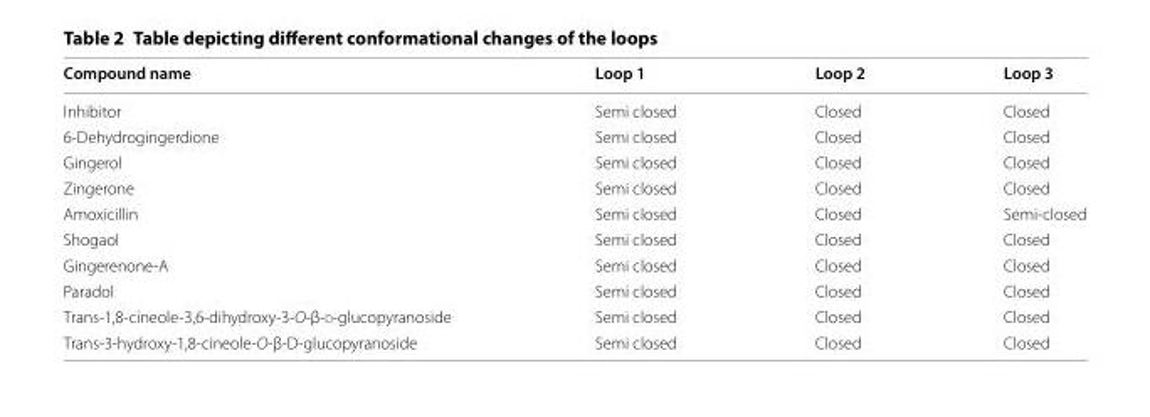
<table><thead><tr><td>Compound name</td><td>Loop 1</td><td>Loop 2</td><td>Loop 3</td></tr></thead><tbody><tr><td>Inhibitor</td><td>Semi closed</td><td>Closed</td><td>Closed</td></tr><tr><td>6-Dehydrogingerdione</td><td>Semi closed</td><td>Closed</td><td>Closed</td></tr><tr><td>Gingerol</td><td>Semi closed</td><td>Closed</td><td>Closed</td></tr><tr><td>Zingerone</td><td>Semi closed</td><td>Closed</td><td>Closed</td></tr><tr><td>Amoxicillin</td><td>Semi closed</td><td>Closed</td><td>Semi-closed</td></tr><tr><td>Shogaol</td><td>Semi closed</td><td>Closed</td><td>Closed</td></tr><tr><td>Gingerenone-A</td><td>Semi closed</td><td>Closed</td><td>Closed</td></tr><tr><td>Paradol</td><td>Semi closed</td><td>Closed</td><td>Closed</td></tr><tr><td>Trans-1,8-cineole-3,6-dihydroxy-3-O-β-d-glucopyranoside</td><td>Semi closed</td><td>Closed</td><td>Closed</td></tr><tr><td>Trans-3-hydroxy-1,8-cineole-O-β-d-glucopyranoside</td><td>Semi closed</td><td>Closed</td><td>Closed</td></tr></tbody></table>